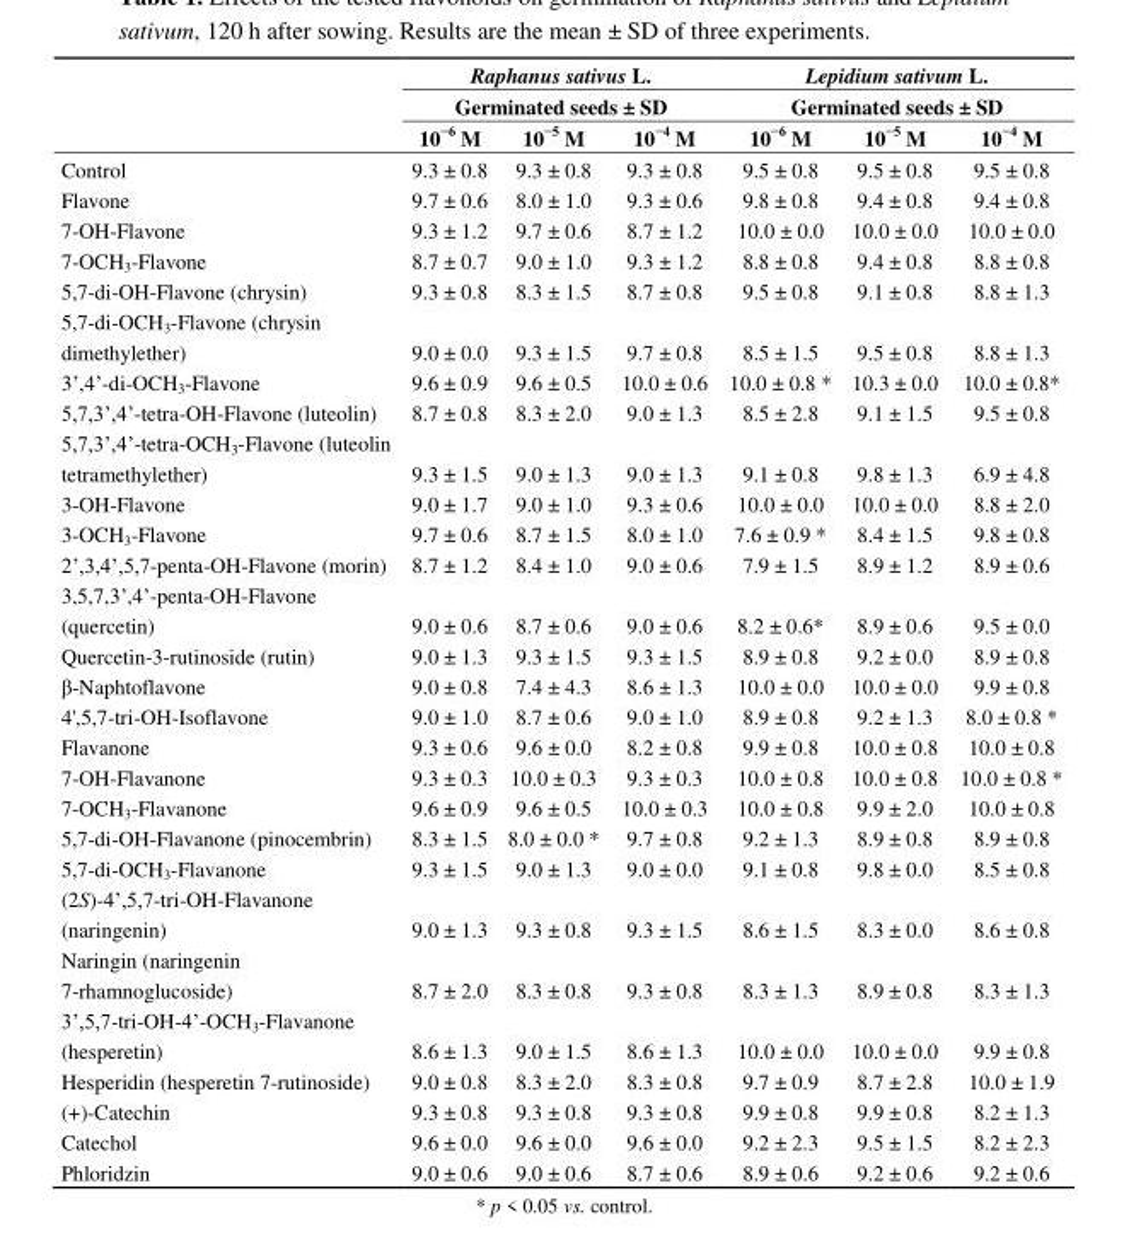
<table><thead><tr><td rowspan="3"></td><td rowspan="2" colspan="3">Raphanus sativus L. Germinated seeds ± SD</td><td rowspan="2" colspan="3">Lepidium sativum L. Germinated seeds ± SD</td></tr><tr></tr><tr><td>10<sup>−6</sup> M</td><td>10<sup>−5</sup> M</td><td>10<sup>−4</sup> M</td><td>10<sup>−6</sup> M</td><td>10<sup>−5</sup> M</td><td>10<sup>−4</sup> M</td></tr></thead><tbody><tr><td>Control</td><td>9.3 ± 0.8</td><td>9.3 ± 0.8</td><td>9.3 ± 0.8</td><td>9.5 ± 0.8</td><td>9.5 ± 0.8</td><td>9.5 ± 0.8</td></tr><tr><td>Flavone</td><td>9.7 ± 0.6</td><td>8.0 ± 1.0</td><td>9.3 ± 0.6</td><td>9.8 ± 0.8</td><td>9.4 ± 0.8</td><td>9.4 ± 0.8</td></tr><tr><td>7-OH-Flavone</td><td>9.3 ± 1.2</td><td>9.7 ± 0.6</td><td>8.7 ± 1.2</td><td>10.0 ± 0.0</td><td>10.0 ± 0.0</td><td>10.0 ± 0.0</td></tr><tr><td>7-OCH<sub>3</sub>-Flavone</td><td>8.7 ± 0.7</td><td>9.0 ± 1.0</td><td>9.3 ± 1.2</td><td>8.8 ± 0.8</td><td>9.4 ± 0.8</td><td>8.8 ± 0.8</td></tr><tr><td>5,7-di-OH-Flavone (chrysin)</td><td>9.3 ± 0.8</td><td>8.3 ± 1.5</td><td>8.7 ± 0.8</td><td>9.5 ± 0.8</td><td>9.1 ± 0.8</td><td>8.8 ± 1.3</td></tr><tr><td>5,7-di-OCH<sub>3</sub>-Flavone (chrysin dimethylether)</td><td>9.0 ± 0.0</td><td>9.3 ± 1.5</td><td>9.7 ± 0.8</td><td>8.5 ± 1.5</td><td>9.5 ± 0.8</td><td>8.8 ± 1.3</td></tr><tr><td>3’,4’-di-OCH<sub>3</sub>-Flavone</td><td>9.6 ± 0.9</td><td>9.6 ± 0.5</td><td>10.0 ± 0.6</td><td>10.0 ± 0.8 *</td><td>10.3 ± 0.0</td><td>10.0 ± 0.8*</td></tr><tr><td>5,7,3’,4’-tetra-OH-Flavone (luteolin)</td><td>8.7 ± 0.8</td><td>8.3 ± 2.0</td><td>9.0 ± 1.3</td><td>8.5 ± 2.8</td><td>9.1 ± 1.5</td><td>9.5 ± 0.8</td></tr><tr><td>5,7,3’,4’-tetra-OCH<sub>3</sub>-Flavone (luteolin tetramethylether)</td><td>9.3 ± 1.5</td><td>9.0 ± 1.3</td><td>9.0 ± 1.3</td><td>9.1 ± 0.8</td><td>9.8 ± 1.3</td><td>6.9 ± 4.8</td></tr><tr><td>3-OH-Flavone</td><td>9.0 ± 1.7</td><td>9.0 ± 1.0</td><td>9.3 ± 0.6</td><td>10.0 ± 0.0</td><td>10.0 ± 0.0</td><td>8.8 ± 2.0</td></tr><tr><td>3-OCH<sub>3</sub>-Flavone</td><td>9.7 ± 0.6</td><td>8.7 ± 1.5</td><td>8.0 ± 1.0</td><td>7.6 ± 0.9 *</td><td>8.4 ± 1.5</td><td>9.8 ± 0.8</td></tr><tr><td>2’,3,4’,5,7-penta-OH-Flavone (morin)</td><td>8.7 ± 1.2</td><td>8.4 ± 1.0</td><td>9.0 ± 0.6</td><td>7.9 ± 1.5</td><td>8.9 ± 1.2</td><td>8.9 ± 0.6</td></tr><tr><td>3,5,7,3’,4’-penta-OH-Flavone (quercetin)</td><td>9.0 ± 0.6</td><td>8.7 ± 0.6</td><td>9.0 ± 0.6</td><td>8.2 ± 0.6*</td><td>8.9 ± 0.6</td><td>9.5 ± 0.0</td></tr><tr><td>Quercetin-3-rutinoside (rutin)</td><td>9.0 ± 1.3</td><td>9.3 ± 1.5</td><td>9.3 ± 1.5</td><td>8.9 ± 0.8</td><td>9.2 ± 0.0</td><td>8.9 ± 0.8</td></tr><tr><td>β-Naphtoflavone</td><td>9.0 ± 0.8</td><td>7.4 ± 4.3</td><td>8.6 ± 1.3</td><td>10.0 ± 0.0</td><td>10.0 ± 0.0</td><td>9.9 ± 0.8</td></tr><tr><td>4&#x27;,5,7-tri-OH-Isoflavone</td><td>9.0 ± 1.0</td><td>8.7 ± 0.6</td><td>9.0 ± 1.0</td><td>8.9 ± 0.8</td><td>9.2 ± 1.3</td><td>8.0 ± 0.8 *</td></tr><tr><td>Flavanone</td><td>9.3 ± 0.6</td><td>9.6 ± 0.0</td><td>8.2 ± 0.8</td><td>9.9 ± 0.8</td><td>10.0 ± 0.8</td><td>10.0 ± 0.8</td></tr><tr><td>7-OH-Flavanone</td><td>9.3 ± 0.3</td><td>10.0 ± 0.3</td><td>9.3 ± 0.3</td><td>10.0 ± 0.8</td><td>10.0 ± 0.8</td><td>10.0 ± 0.8 *</td></tr><tr><td>7-OCH<sub>3</sub>-Flavanone</td><td>9.6 ± 0.9</td><td>9.6 ± 0.5</td><td>10.0 ± 0.3</td><td>10.0 ± 0.8</td><td>9.9 ± 2.0</td><td>10.0 ± 0.8</td></tr><tr><td>5,7-di-OH-Flavanone (pinocembrin)</td><td>8.3 ± 1.5</td><td>8.0 ± 0.0 *</td><td>9.7 ± 0.8</td><td>9.2 ± 1.3</td><td>8.9 ± 0.8</td><td>8.9 ± 0.8</td></tr><tr><td>5,7-di-OCH<sub>3</sub>-Flavanone</td><td>9.3 ± 1.5</td><td>9.0 ± 1.3</td><td>9.0 ± 0.0</td><td>9.1 ± 0.8</td><td>9.8 ± 0.0</td><td>8.5 ± 0.8</td></tr><tr><td>(2S)-4’,5,7-tri-OH-Flavanone (naringenin)</td><td>9.0 ± 1.3</td><td>9.3 ± 0.8</td><td>9.3 ± 1.5</td><td>8.6 ± 1.5</td><td>8.3 ± 0.0</td><td>8.6 ± 0.8</td></tr><tr><td>Naringin (naringenin 7-rhamnoglucoside)</td><td>8.7 ± 2.0</td><td>8.3 ± 0.8</td><td>9.3 ± 0.8</td><td>8.3 ± 1.3</td><td>8.9 ± 0.8</td><td>8.3 ± 1.3</td></tr><tr><td>3’,5,7-tri-OH-4’-OCH<sub>3</sub>-Flavanone (hesperetin)</td><td>8.6 ± 1.3</td><td>9.0 ± 1.5</td><td>8.6 ± 1.3</td><td>10.0 ± 0.0</td><td>10.0 ± 0.0</td><td>9.9 ± 0.8</td></tr><tr><td>Hesperidin (hesperetin 7-rutinoside)</td><td>9.0 ± 0.8</td><td>8.3 ± 2.0</td><td>8.3 ± 0.8</td><td>9.7 ± 0.9</td><td>8.7 ± 2.8</td><td>10.0 ± 1.9</td></tr><tr><td>(+)-Catechin</td><td>9.3 ± 0.8</td><td>9.3 ± 0.8</td><td>9.3 ± 0.8</td><td>9.9 ± 0.8</td><td>9.9 ± 0.8</td><td>8.2 ± 1.3</td></tr><tr><td>Catechol</td><td>9.6 ± 0.0</td><td>9.6 ± 0.0</td><td>9.6 ± 0.0</td><td>9.2 ± 2.3</td><td>9.5 ± 1.5</td><td>8.2 ± 2.3</td></tr><tr><td>Phloridzin</td><td>9.0 ± 0.6</td><td>9.0 ± 0.6</td><td>8.7 ± 0.6</td><td>8.9 ± 0.6</td><td>9.2 ± 0.6</td><td>9.2 ± 0.6</td></tr></tbody></table>